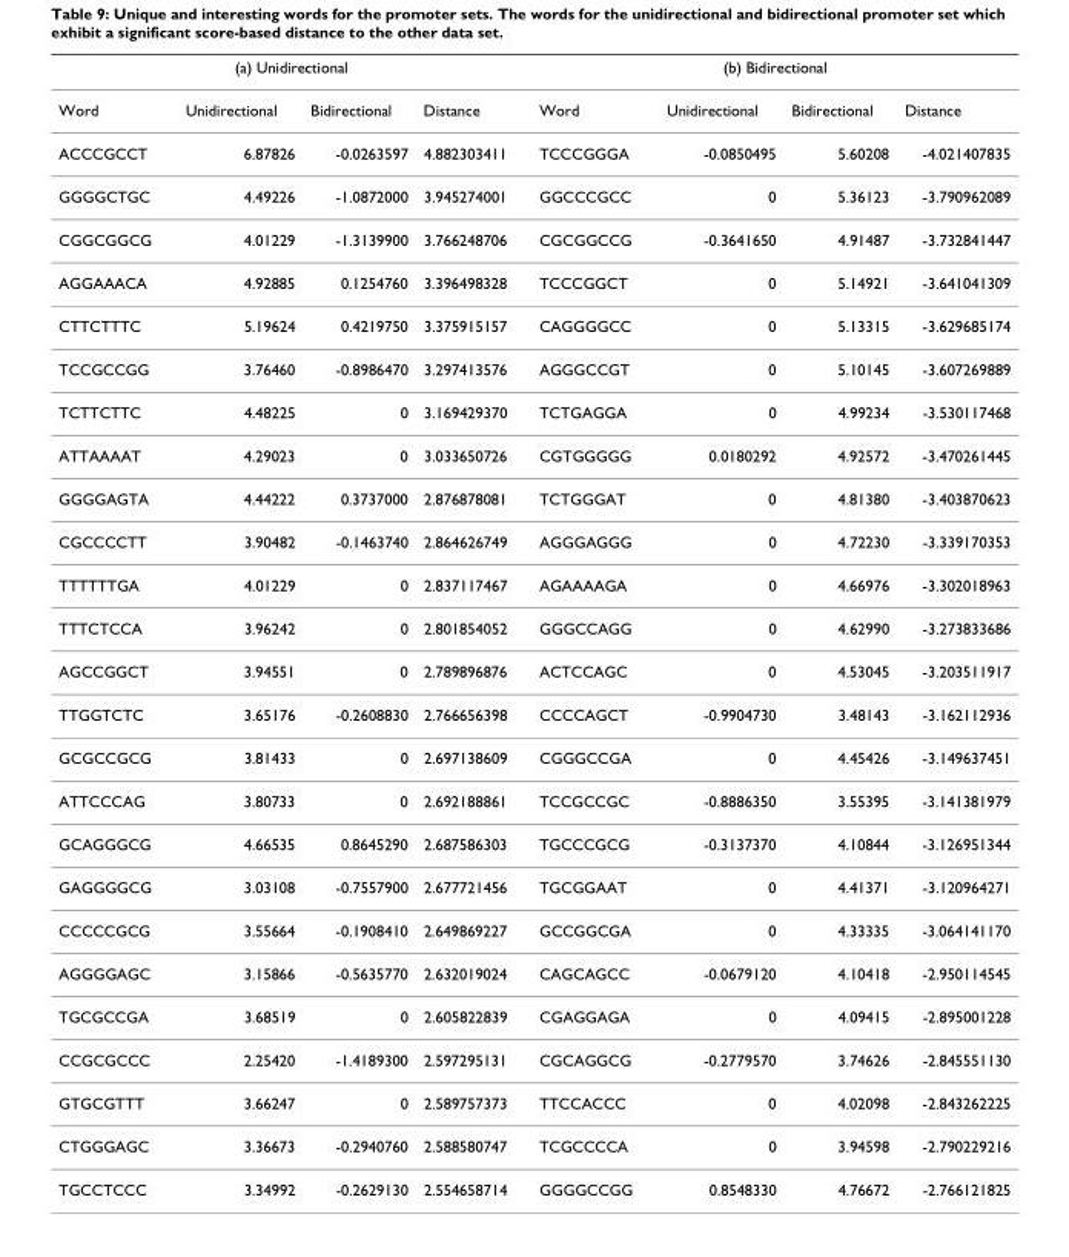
<table><thead><tr><td colspan="4">(a) Unidirectional</td><td colspan="4">(b) Bidirectional</td></tr><tr><td>Word</td><td>Unidirectional</td><td>Bidirectional</td><td>Distance</td><td>Word</td><td>Unidirectional</td><td>Bidirectional</td><td>Distance</td></tr></thead><tbody><tr><td>ACCCGCCT</td><td>6.87826</td><td>-0.0263597</td><td>4.882303411</td><td>TCCCGGGA</td><td>-0.0850495</td><td>5.60208</td><td>-4.021407835</td></tr><tr><td>GGGGCTGC</td><td>4.49226</td><td>-1.0872000</td><td>3.945274001</td><td>GGCCCGCC</td><td>0</td><td>5.36123</td><td>-3.790962089</td></tr><tr><td>CGGCGGCG</td><td>4.01229</td><td>-1.3139900</td><td>3.766248706</td><td>CGCGGCCG</td><td>-0.3641650</td><td>4.91487</td><td>-3.732841447</td></tr><tr><td>AGGAAACA</td><td>4.92885</td><td>0.1254760</td><td>3.396498328</td><td>TCCCGGCT</td><td>0</td><td>5.14921</td><td>-3.641041309</td></tr><tr><td>CTTCTTTC</td><td>5.19624</td><td>0.4219750</td><td>3.375915157</td><td>CAGGGGCC</td><td>0</td><td>5.13315</td><td>-3.629685174</td></tr><tr><td>TCCGCCGG</td><td>3.76460</td><td>-0.8986470</td><td>3.297413576</td><td>AGGGCCGT</td><td>0</td><td>5.10145</td><td>-3.607269889</td></tr><tr><td>TCTTCTTC</td><td>4.48225</td><td>0</td><td>3.169429370</td><td>TCTGAGGA</td><td>0</td><td>4.99234</td><td>-3.530117468</td></tr><tr><td>ATTAAAAT</td><td>4.29023</td><td>0</td><td>3.033650726</td><td>CGTGGGGG</td><td>0.0180292</td><td>4.92572</td><td>-3.470261445</td></tr><tr><td>GGGGAGTA</td><td>4.44222</td><td>0.3737000</td><td>2.876878081</td><td>TCTGGGAT</td><td>0</td><td>4.81380</td><td>-3.403870623</td></tr><tr><td>CGCCCCTT</td><td>3.90482</td><td>-0.1463740</td><td>2.864626749</td><td>AGGGAGGG</td><td>0</td><td>4.72230</td><td>-3.339170353</td></tr><tr><td>TTTTTTGA</td><td>4.01229</td><td>0</td><td>2.837117467</td><td>AGAAAAGA</td><td>0</td><td>4.66976</td><td>-3.302018963</td></tr><tr><td>TTTCTCCA</td><td>3.96242</td><td>0</td><td>2.801854052</td><td>GGGCCAGG</td><td>0</td><td>4.62990</td><td>-3.273833686</td></tr><tr><td>AGCCGGCT</td><td>3.94551</td><td>0</td><td>2.789896876</td><td>ACTCCAGC</td><td>0</td><td>4.53045</td><td>-3.203511917</td></tr><tr><td>TTGGTCTC</td><td>3.65176</td><td>-0.2608830</td><td>2.766656398</td><td>CCCCAGCT</td><td>-0.9904730</td><td>3.48143</td><td>-3.162112936</td></tr><tr><td>GCGCCGCG</td><td>3.81433</td><td>0</td><td>2.697138609</td><td>CGGGCCGA</td><td>0</td><td>4.45426</td><td>-3.149637451</td></tr><tr><td>ATTCCCAG</td><td>3.80733</td><td>0</td><td>2.692188861</td><td>TCCGCCGC</td><td>-0.8886350</td><td>3.55395</td><td>-3.141381979</td></tr><tr><td>GCAGGGCG</td><td>4.66535</td><td>0.8645290</td><td>2.687586303</td><td>TGCCCGCG</td><td>-0.3137370</td><td>4.10844</td><td>-3.126951344</td></tr><tr><td>GAGGGGCG</td><td>3.03108</td><td>-0.7557900</td><td>2.677721456</td><td>TGCGGAAT</td><td>0</td><td>4.41371</td><td>-3.120964271</td></tr><tr><td>CCCCCGCG</td><td>3.55664</td><td>-0.1908410</td><td>2.649869227</td><td>GCCGGCGA</td><td>0</td><td>4.33335</td><td>-3.064141170</td></tr><tr><td>AGGGGAGC</td><td>3.15866</td><td>-0.5635770</td><td>2.632019024</td><td>CAGCAGCC</td><td>-0.0679120</td><td>4.10418</td><td>-2.950114545</td></tr><tr><td>TGCGCCGA</td><td>3.68519</td><td>0</td><td>2.605822839</td><td>CGAGGAGA</td><td>0</td><td>4.09415</td><td>-2.895001228</td></tr><tr><td>CCGCGCCC</td><td>2.25420</td><td>-1.4189300</td><td>2.597295131</td><td>CGCAGGCG</td><td>-0.2779570</td><td>3.74626</td><td>-2.845551130</td></tr><tr><td>GTGCGTTT</td><td>3.66247</td><td>0</td><td>2.589757373</td><td>TTCCACCC</td><td>0</td><td>4.02098</td><td>-2.843262225</td></tr><tr><td>CTGGGAGC</td><td>3.36673</td><td>-0.2940760</td><td>2.588580747</td><td>TCGCCCCA</td><td>0</td><td>3.94598</td><td>-2.790229216</td></tr><tr><td>TGCCTCCC</td><td>3.34992</td><td>-0.2629130</td><td>2.554658714</td><td>GGGGCCGG</td><td>0.8548330</td><td>4.76672</td><td>-2.766121825</td></tr></tbody></table>